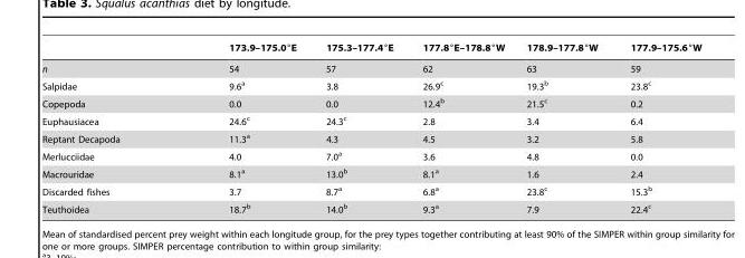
<table><thead><tr><td></td><td>173.9–175.0°E</td><td>175.3–177.4°E</td><td>177.8°E–178.8°W</td><td>178.9–177.8°W</td><td>177.9–175.6°W</td></tr></thead><tbody><tr><td>n</td><td>54</td><td>57</td><td>62</td><td>63</td><td>59</td></tr><tr><td>Salpidae</td><td>9.6<sup>a</sup></td><td>3.8</td><td>26.9<sup>c</sup></td><td>19.3<sup>b</sup></td><td>23.8<sup>c</sup></td></tr><tr><td>Copepoda</td><td>0.0</td><td>0.0</td><td>12.4<sup>b</sup></td><td>21.5<sup>c</sup></td><td>0.2</td></tr><tr><td>Euphausiacea</td><td>24.6<sup>c</sup></td><td>24.3<sup>c</sup></td><td>2.8</td><td>3.4</td><td>6.4</td></tr><tr><td>Reptant Decapoda</td><td>11.3<sup>a</sup></td><td>4.3</td><td>4.5</td><td>3.2</td><td>5.8</td></tr><tr><td>Merlucciidae</td><td>4.0</td><td>7.0<sup>a</sup></td><td>3.6</td><td>4.8</td><td>0.0</td></tr><tr><td>Macrouridae</td><td>8.1<sup>a</sup></td><td>13.0<sup>b</sup></td><td>8.1<sup>a</sup></td><td>1.6</td><td>2.4</td></tr><tr><td>Discarded fishes</td><td>3.7</td><td>8.7<sup>a</sup></td><td>6.8<sup>a</sup></td><td>23.8<sup>c</sup></td><td>15.3<sup>b</sup></td></tr><tr><td>Teuthoidea</td><td>18.7<sup>b</sup></td><td>14.0<sup>b</sup></td><td>9.3<sup>a</sup></td><td>7.9</td><td>22.4<sup>c</sup></td></tr></tbody></table>